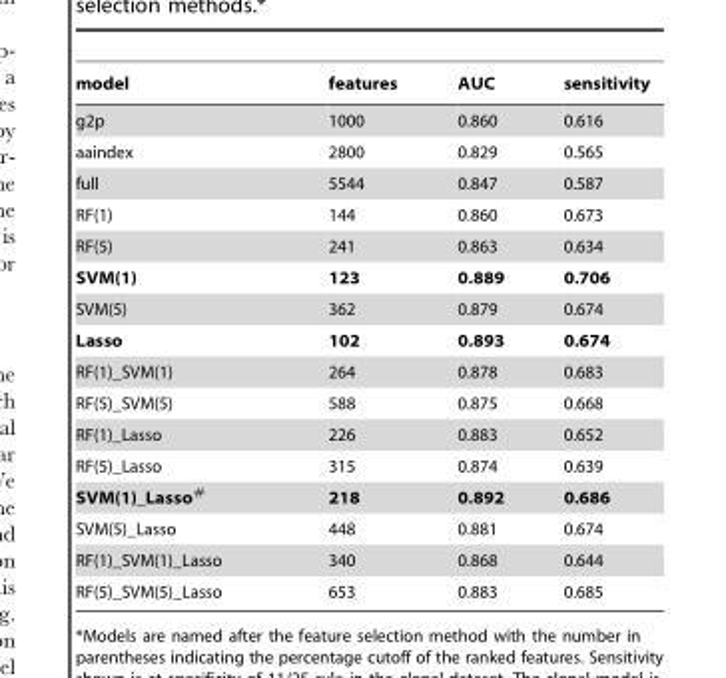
<table><thead><tr><td>model</td><td>features</td><td>AUC</td><td>sensitivity</td></tr></thead><tbody><tr><td>g2p</td><td>1000</td><td>0.860</td><td>0.616</td></tr><tr><td>aaindex</td><td>2800</td><td>0.829</td><td>0.565</td></tr><tr><td>full</td><td>5544</td><td>0.847</td><td>0.587</td></tr><tr><td>RF(1)</td><td>144</td><td>0.860</td><td>0.673</td></tr><tr><td>RF(5)</td><td>241</td><td>0.863</td><td>0.634</td></tr><tr><td>SVM(1)</td><td>123</td><td>0.889</td><td>0.706</td></tr><tr><td>SVM(5)</td><td>362</td><td>0.879</td><td>0.674</td></tr><tr><td>Lasso</td><td>102</td><td>0.893</td><td>0.674</td></tr><tr><td>RF(1)_SVM(1)</td><td>264</td><td>0.878</td><td>0.683</td></tr><tr><td>RF(5)_SVM(5)</td><td>588</td><td>0.875</td><td>0.668</td></tr><tr><td>RF(1)_Lasso</td><td>226</td><td>0.883</td><td>0.652</td></tr><tr><td>RF(5)_Lasso</td><td>315</td><td>0.874</td><td>0.639</td></tr><tr><td>SVM(1)_Lasso<sup>#</sup></td><td>218</td><td>0.892</td><td>0.686</td></tr><tr><td>SVM(5)_Lasso</td><td>448</td><td>0.881</td><td>0.674</td></tr><tr><td>RF(1)_SVM(1)_Lasso</td><td>340</td><td>0.868</td><td>0.644</td></tr><tr><td>RF(5)_SVM(5)_Lasso</td><td>653</td><td>0.883</td><td>0.685</td></tr></tbody></table>